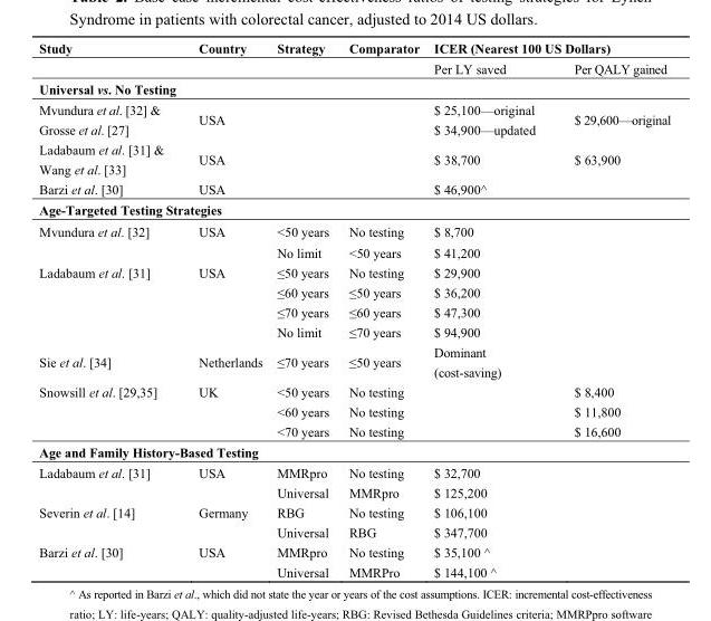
<table><thead><tr><td rowspan="2">Study</td><td rowspan="2">Country</td><td rowspan="2">Strategy</td><td rowspan="2">Comparator</td><td colspan="2">ICER (Nearest 100 US Dollars)</td></tr><tr><td>Per LY saved</td><td>Per QALY gained</td></tr></thead><tbody><tr><td colspan="6">Universal vs. No Testing</td></tr><tr><td>Mvundura et al. [32] &amp; Grosse et al. [27]</td><td>USA</td><td></td><td></td><td>$ 25,100—original $ 34,900—updated</td><td>$ 29,600—original</td></tr><tr><td>Ladabaum et al. [31] &amp; Wang et al. [33]</td><td>USA</td><td></td><td></td><td>$ 38,700</td><td>$ 63,900</td></tr><tr><td>Barzi et al. [30]</td><td>USA</td><td></td><td></td><td>$ 46,900^</td><td></td></tr><tr><td colspan="6">Age-Targeted Testing Strategies</td></tr><tr><td rowspan="2">Mvundura et al. [32]</td><td>USA</td><td>&lt;50 years</td><td>No testing</td><td>$ 8,700</td><td></td></tr><tr><td></td><td>No limit</td><td>&lt;50 years</td><td>$ 41,200</td><td></td></tr><tr><td rowspan="4">Ladabaum et al. [31]</td><td>USA</td><td>≤50 years</td><td>No testing</td><td>$ 29,900</td><td></td></tr><tr><td></td><td>≤60 years</td><td>≤50 years</td><td>$ 36,200</td><td></td></tr><tr><td></td><td>≤70 years</td><td>≤60 years</td><td>$ 47,300</td><td></td></tr><tr><td></td><td>No limit</td><td>≤70 years</td><td>$ 94,900</td><td></td></tr><tr><td>Sie et al. [34]</td><td>Netherlands</td><td>≤70 years</td><td>≤50 years</td><td>Dominant (cost-saving)</td><td></td></tr><tr><td rowspan="3">Snowsill et al. [29,35]</td><td>UK</td><td>&lt;50 years</td><td>No testing</td><td></td><td>$ 8,400</td></tr><tr><td></td><td>&lt;60 years</td><td>No testing</td><td></td><td>$ 11,800</td></tr><tr><td></td><td>&lt;70 years</td><td>No testing</td><td></td><td>$ 16,600</td></tr><tr><td colspan="6">Age and Family History-Based Testing</td></tr><tr><td rowspan="2">Ladabaum et al. [31]</td><td>USA</td><td>MMRpro</td><td>No testing</td><td>$ 32,700</td><td></td></tr><tr><td></td><td>Universal</td><td>MMRpro</td><td>$ 125,200</td><td></td></tr><tr><td rowspan="2">Severin et al. [14]</td><td>Germany</td><td>RBG</td><td>No testing</td><td>$ 106,100</td><td></td></tr><tr><td></td><td>Universal</td><td>RBG</td><td>$ 347,700</td><td></td></tr><tr><td rowspan="2">Barzi et al. [30]</td><td>USA</td><td>MMRpro</td><td>No testing</td><td>$ 35,100 ^</td><td></td></tr><tr><td></td><td>Universal</td><td>MMRPro</td><td>$ 144,100 ^</td><td></td></tr></tbody></table>